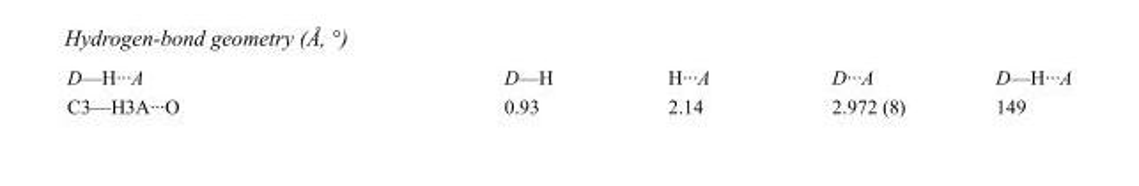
<table><tbody><tr><td>D—H···A</td><td>D—H</td><td>H···A</td><td>D···A</td><td>D—H···A</td></tr><tr><td>C3—H3A···O</td><td>0.93</td><td>2.14</td><td>2.972 (8)</td><td>149</td></tr></tbody></table>